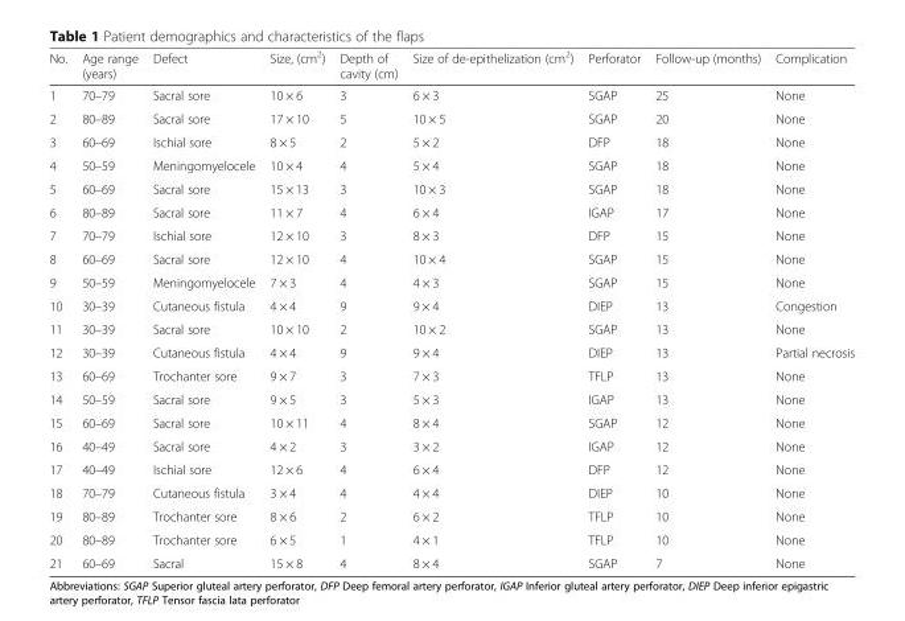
<table><thead><tr><td>No.</td><td>Age range (years)</td><td>Defect</td><td>Size, (cm<sup>2</sup>)</td><td>Depth of cavity (cm)</td><td>Size of de-epithelization (cm<sup>2</sup>)</td><td>Perforator</td><td>Follow-up (months)</td><td>Complication</td></tr></thead><tbody><tr><td>1</td><td>70–79</td><td>Sacral sore</td><td>10 × 6</td><td>3</td><td>6 × 3</td><td>SGAP</td><td>25</td><td>None</td></tr><tr><td>2</td><td>80–89</td><td>Sacral sore</td><td>17 × 10</td><td>5</td><td>10 × 5</td><td>SGAP</td><td>20</td><td>None</td></tr><tr><td>3</td><td>60–69</td><td>Ischial sore</td><td>8 × 5</td><td>2</td><td>5 × 2</td><td>DFP</td><td>18</td><td>None</td></tr><tr><td>4</td><td>50–59</td><td>Meningomyelocele</td><td>10 × 4</td><td>4</td><td>5 × 4</td><td>SGAP</td><td>18</td><td>None</td></tr><tr><td>5</td><td>60–69</td><td>Sacral sore</td><td>15 × 13</td><td>3</td><td>10 × 3</td><td>SGAP</td><td>18</td><td>None</td></tr><tr><td>6</td><td>80–89</td><td>Sacral sore</td><td>11 × 7</td><td>4</td><td>6 × 4</td><td>IGAP</td><td>17</td><td>None</td></tr><tr><td>7</td><td>70–79</td><td>Ischial sore</td><td>12 × 10</td><td>3</td><td>8 × 3</td><td>DFP</td><td>15</td><td>None</td></tr><tr><td>8</td><td>60–69</td><td>Sacral sore</td><td>12 × 10</td><td>4</td><td>10 × 4</td><td>SGAP</td><td>15</td><td>None</td></tr><tr><td>9</td><td>50–59</td><td>Meningomyelocele</td><td>7 × 3</td><td>4</td><td>4 × 3</td><td>SGAP</td><td>15</td><td>None</td></tr><tr><td>10</td><td>30–39</td><td>Cutaneous fistula</td><td>4 × 4</td><td>9</td><td>9 × 4</td><td>DIEP</td><td>13</td><td>Congestion</td></tr><tr><td>11</td><td>30–39</td><td>Sacral sore</td><td>10 × 10</td><td>2</td><td>10 × 2</td><td>SGAP</td><td>13</td><td>None</td></tr><tr><td>12</td><td>30–39</td><td>Cutaneous fistula</td><td>4 × 4</td><td>9</td><td>9 × 4</td><td>DIEP</td><td>13</td><td>Partial necrosis</td></tr><tr><td>13</td><td>60–69</td><td>Trochanter sore</td><td>9 × 7</td><td>3</td><td>7 × 3</td><td>TFLP</td><td>13</td><td>None</td></tr><tr><td>14</td><td>50–59</td><td>Sacral sore</td><td>9 × 5</td><td>3</td><td>5 × 3</td><td>IGAP</td><td>13</td><td>None</td></tr><tr><td>15</td><td>60–69</td><td>Sacral sore</td><td>10 × 11</td><td>4</td><td>8 × 4</td><td>SGAP</td><td>12</td><td>None</td></tr><tr><td>16</td><td>40–49</td><td>Sacral sore</td><td>4 × 2</td><td>3</td><td>3 × 2</td><td>IGAP</td><td>12</td><td>None</td></tr><tr><td>17</td><td>40–49</td><td>Ischial sore</td><td>12 × 6</td><td>4</td><td>6 × 4</td><td>DFP</td><td>12</td><td>None</td></tr><tr><td>18</td><td>70–79</td><td>Cutaneous fistula</td><td>3 × 4</td><td>4</td><td>4 × 4</td><td>DIEP</td><td>10</td><td>None</td></tr><tr><td>19</td><td>80–89</td><td>Trochanter sore</td><td>8 × 6</td><td>2</td><td>6 × 2</td><td>TFLP</td><td>10</td><td>None</td></tr><tr><td>20</td><td>80–89</td><td>Trochanter sore</td><td>6 × 5</td><td>1</td><td>4 × 1</td><td>TFLP</td><td>10</td><td>None</td></tr><tr><td>21</td><td>60–69</td><td>Sacral</td><td>15 × 8</td><td>4</td><td>8 × 4</td><td>SGAP</td><td>7</td><td>None</td></tr></tbody></table>